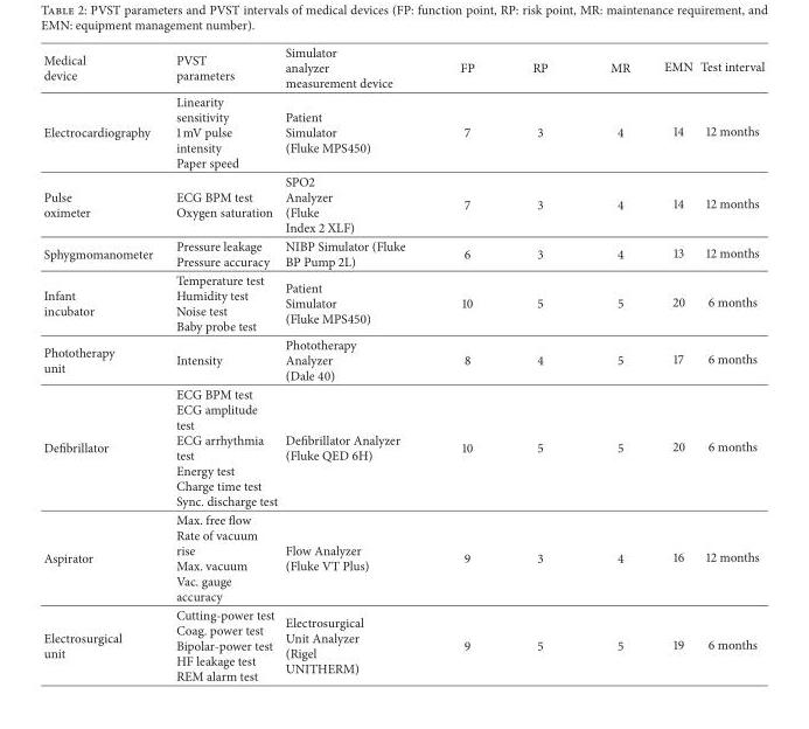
<table><thead><tr><td>Medical device</td><td>PVST parameters</td><td>Simulator analyzer measurement device</td><td>FP</td><td>RP</td><td>MR</td><td>EMN</td><td>Test interval</td></tr></thead><tbody><tr><td>Electrocardiography</td><td>Linearity sensitivity 1 mV pulse intensity Paper speed</td><td>Patient Simulator (Fluke MPS450)</td><td>7</td><td>3</td><td>4</td><td>14</td><td>12 months</td></tr><tr><td>Pulse oximeter</td><td>ECG BPM test Oxygen saturation</td><td>SPO2 Analyzer (Fluke Index 2 XLF)</td><td>7</td><td>3</td><td>4</td><td>14</td><td>12 months</td></tr><tr><td>Sphygmomanometer</td><td>Pressure leakage Pressure accuracy</td><td>NIBP Simulator (Fluke BP Pump 2L)</td><td>6</td><td>3</td><td>4</td><td>13</td><td>12 months</td></tr><tr><td>Infant incubator</td><td>Temperature test Humidity test Noise test Baby probe test</td><td>Patient Simulator (Fluke MPS450)</td><td>10</td><td>5</td><td>5</td><td>20</td><td>6 months</td></tr><tr><td>Phototherapy unit</td><td>Intensity</td><td>Phototherapy Analyzer (Dale 40)</td><td>8</td><td>4</td><td>5</td><td>17</td><td>6 months</td></tr><tr><td>Defibrillator</td><td>ECG BPM test ECG amplitude test ECG arrhythmia test Energy test Charge time test Sync. discharge test</td><td>Defibrillator Analyzer (Fluke QED 6H)</td><td>10</td><td>5</td><td>5</td><td>20</td><td>6 months</td></tr><tr><td>Aspirator</td><td>Max. free flow Rate of vacuum rise Max. vacuum Vac. gauge accuracy</td><td>Flow Analyzer (Fluke VT Plus)</td><td>9</td><td>3</td><td>4</td><td>16</td><td>12 months</td></tr><tr><td>Electrosurgical unit</td><td>Cutting-power test Coag. power test Bipolar-power test HF leakage test REM alarm test</td><td>Electrosurgical Unit Analyzer (Rigel UNITHERM)</td><td>9</td><td>5</td><td>5</td><td>19</td><td>6 months</td></tr></tbody></table>